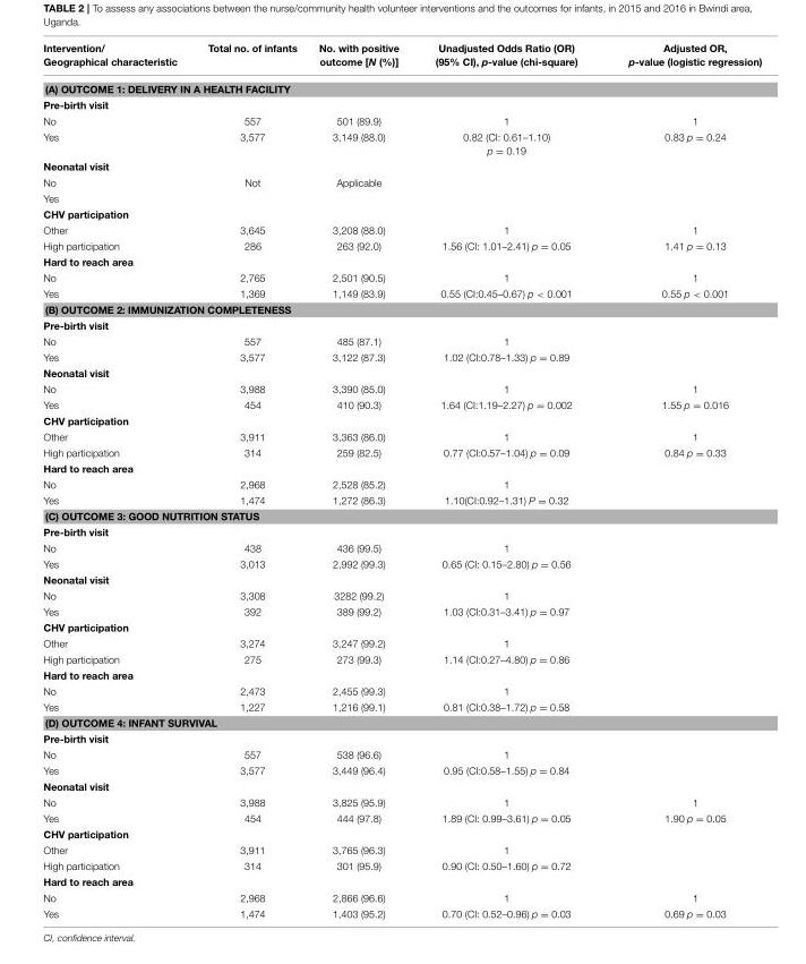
<table><thead><tr><td>Intervention/ Geographical characteristic</td><td>Total no. of infants</td><td>No. with positive outcome [N (%)]</td><td>Unadjusted Odds Ratio (OR) (95% CI), p-value (chi-square)</td><td>Adjusted OR, p-value (logistic regression)</td></tr></thead><tbody><tr><td colspan="5">(A) OUTCOME 1: DELIVERY IN A HEALTH FACILITY</td></tr><tr><td colspan="5">Pre-birth visit</td></tr><tr><td>No</td><td>557</td><td>501 (89.9)</td><td>1</td><td>1</td></tr><tr><td>Yes</td><td>3,577</td><td>3,149 (88.0)</td><td>0.82 (CI: 0.61–1.10) p = 0.19</td><td>0.83 p = 0.24</td></tr><tr><td colspan="5">Neonatal visit</td></tr><tr><td>No</td><td>Not</td><td>Applicable</td><td></td><td></td></tr><tr><td colspan="5">Yes</td></tr><tr><td colspan="5">CHV participation</td></tr><tr><td>Other</td><td>3,645</td><td>3,208 (88.0)</td><td>1</td><td>1</td></tr><tr><td>High participation</td><td>286</td><td>263 (92.0)</td><td>1.56 (CI: 1.01–2.41) p = 0.05</td><td>1.41 p = 0.13</td></tr><tr><td colspan="5">Hard to reach area</td></tr><tr><td>No</td><td>2,765</td><td>2,501 (90.5)</td><td>1</td><td>1</td></tr><tr><td>Yes</td><td>1,369</td><td>1,149 (83.9)</td><td>0.55 (CI:0.45–0.67) p &lt; 0.001</td><td>0.55 p &lt; 0.001</td></tr><tr><td colspan="5">(B) OUTCOME 2: IMMUNIZATION COMPLETENESS</td></tr><tr><td colspan="5">Pre-birth visit</td></tr><tr><td>No</td><td>557</td><td>485 (87.1)</td><td>1</td><td></td></tr><tr><td>Yes</td><td>3,577</td><td>3,122 (87.3)</td><td>1.02 (CI:0.78–1.33) p = 0.89</td><td></td></tr><tr><td colspan="5">Neonatal visit</td></tr><tr><td>No</td><td>3,988</td><td>3,390 (85.0)</td><td>1</td><td>1</td></tr><tr><td>Yes</td><td>454</td><td>410 (90.3)</td><td>1.64 (CI:1.19–2.27) p = 0.002</td><td>1.55 p = 0.016</td></tr><tr><td colspan="5">CHV participation</td></tr><tr><td>Other</td><td>3,911</td><td>3,363 (86.0)</td><td>1</td><td>1</td></tr><tr><td>High participation</td><td>314</td><td>259 (82.5)</td><td>0.77 (CI:0.57–1.04) p = 0.09</td><td>0.84 p = 0.33</td></tr><tr><td colspan="5">Hard to reach area</td></tr><tr><td>No</td><td>2,968</td><td>2,528 (85.2)</td><td>1</td><td></td></tr><tr><td>Yes</td><td>1,474</td><td>1,272 (86.3)</td><td>1.10(CI:0.92–1.31) P = 0.32</td><td></td></tr><tr><td colspan="5">(C) OUTCOME 3: GOOD NUTRITION STATUS</td></tr><tr><td colspan="5">Pre-birth visit</td></tr><tr><td>No</td><td>438</td><td>436 (99.5)</td><td>1</td><td></td></tr><tr><td>Yes</td><td>3,013</td><td>2,992 (99.3)</td><td>0.65 (CI: 0.15–2.80) p = 0.56</td><td></td></tr><tr><td colspan="5">Neonatal visit</td></tr><tr><td>No</td><td>3,308</td><td>3282 (99.2)</td><td>1</td><td></td></tr><tr><td>Yes</td><td>392</td><td>389 (99.2)</td><td>1.03 (CI:0.31–3.41) p = 0.97</td><td></td></tr><tr><td colspan="5">CHV participation</td></tr><tr><td>Other</td><td>3,274</td><td>3,247 (99.2)</td><td>1</td><td></td></tr><tr><td>High participation</td><td>275</td><td>273 (99.3)</td><td>1.14 (CI:0.27–4.80) p = 0.86</td><td></td></tr><tr><td colspan="5">Hard to reach area</td></tr><tr><td>No</td><td>2,473</td><td>2,455 (99.3)</td><td>1</td><td></td></tr><tr><td>Yes</td><td>1,227</td><td>1,216 (99.1)</td><td>0.81 (CI:0.38–1.72) p = 0.58</td><td></td></tr><tr><td colspan="5">(D) OUTCOME 4: INFANT SURVIVAL</td></tr><tr><td colspan="5">Pre-birth visit</td></tr><tr><td>No</td><td>557</td><td>538 (96.6)</td><td>1</td><td></td></tr><tr><td>Yes</td><td>3,577</td><td>3,449 (96.4)</td><td>0.95 (CI:0.58–1.55) p = 0.84</td><td></td></tr><tr><td colspan="5">Neonatal visit</td></tr><tr><td>No</td><td>3,988</td><td>3,825 (95.9)</td><td>1</td><td>1</td></tr><tr><td>Yes</td><td>454</td><td>444 (97.8)</td><td>1.89 (CI: 0.99–3.61) p = 0.05</td><td>1.90 p = 0.05</td></tr><tr><td colspan="5">CHV participation</td></tr><tr><td>Other</td><td>3,911</td><td>3,765 (96.3)</td><td>1</td><td></td></tr><tr><td>High participation</td><td>314</td><td>301 (95.9)</td><td>0.90 (CI: 0.50–1.60) p = 0.72</td><td></td></tr><tr><td colspan="5">Hard to reach area</td></tr><tr><td>No</td><td>2,968</td><td>2,866 (96.6)</td><td>1</td><td>1</td></tr><tr><td>Yes</td><td>1,474</td><td>1,403 (95.2)</td><td>0.70 (CI: 0.52–0.96) p = 0.03</td><td>0.69 p = 0.03</td></tr></tbody></table>